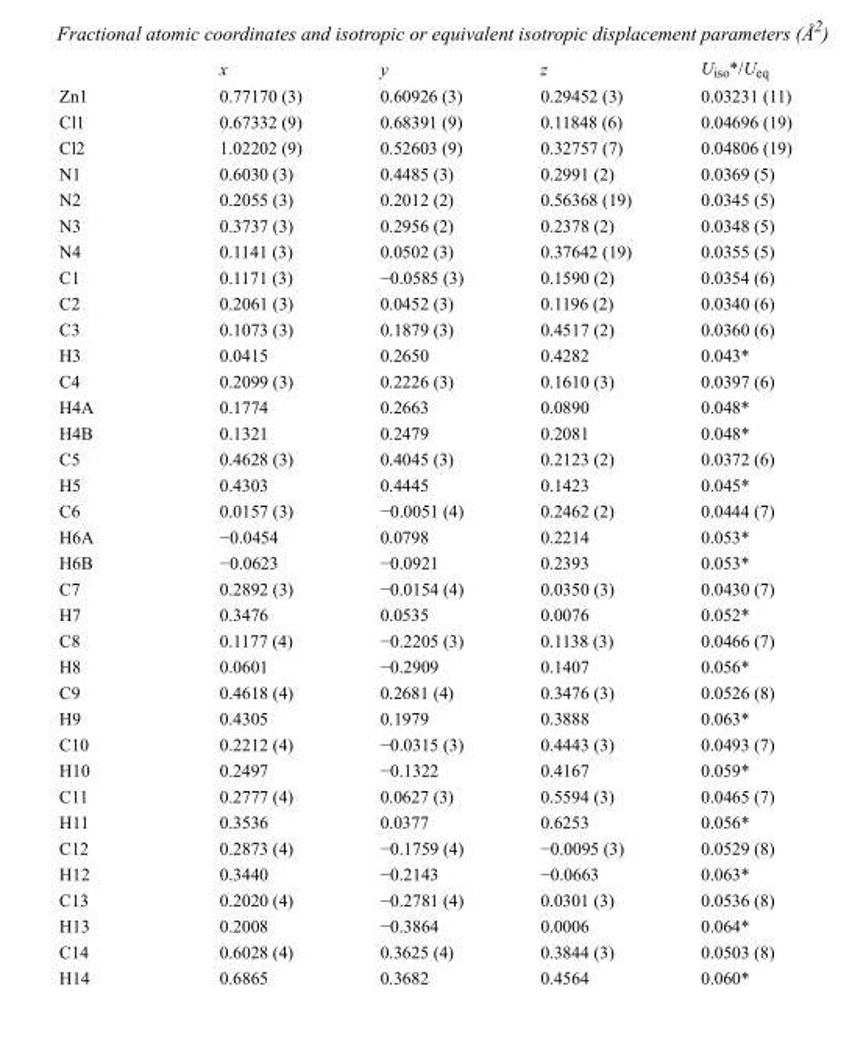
<table><thead><tr><td></td><td>x</td><td>y</td><td>z</td><td>U<sub>iso</sub>*/U<sub>eq</sub></td></tr></thead><tbody><tr><td>Zn1</td><td>0.77170 (3)</td><td>0.60926 (3)</td><td>0.29452 (3)</td><td>0.03231 (11)</td></tr><tr><td>Cl1</td><td>0.67332 (9)</td><td>0.68391 (9)</td><td>0.11848 (6)</td><td>0.04696 (19)</td></tr><tr><td>Cl2</td><td>1.02202 (9)</td><td>0.52603 (9)</td><td>0.32757 (7)</td><td>0.04806 (19)</td></tr><tr><td>N1</td><td>0.6030 (3)</td><td>0.4485 (3)</td><td>0.2991 (2)</td><td>0.0369 (5)</td></tr><tr><td>N2</td><td>0.2055 (3)</td><td>0.2012 (2)</td><td>0.56368 (19)</td><td>0.0345 (5)</td></tr><tr><td>N3</td><td>0.3737 (3)</td><td>0.2956 (2)</td><td>0.2378 (2)</td><td>0.0348 (5)</td></tr><tr><td>N4</td><td>0.1141 (3)</td><td>0.0502 (3)</td><td>0.37642 (19)</td><td>0.0355 (5)</td></tr><tr><td>C1</td><td>0.1171 (3)</td><td>−0.0585 (3)</td><td>0.1590 (2)</td><td>0.0354 (6)</td></tr><tr><td>C2</td><td>0.2061 (3)</td><td>0.0452 (3)</td><td>0.1196 (2)</td><td>0.0340 (6)</td></tr><tr><td>C3</td><td>0.1073 (3)</td><td>0.1879 (3)</td><td>0.4517 (2)</td><td>0.0360 (6)</td></tr><tr><td>H3</td><td>0.0415</td><td>0.2650</td><td>0.4282</td><td>0.043*</td></tr><tr><td>C4</td><td>0.2099 (3)</td><td>0.2226 (3)</td><td>0.1610 (3)</td><td>0.0397 (6)</td></tr><tr><td>H4A</td><td>0.1774</td><td>0.2663</td><td>0.0890</td><td>0.048*</td></tr><tr><td>H4B</td><td>0.1321</td><td>0.2479</td><td>0.2081</td><td>0.048*</td></tr><tr><td>C5</td><td>0.4628 (3)</td><td>0.4045 (3)</td><td>0.2123 (2)</td><td>0.0372 (6)</td></tr><tr><td>H5</td><td>0.4303</td><td>0.4445</td><td>0.1423</td><td>0.045*</td></tr><tr><td>C6</td><td>0.0157 (3)</td><td>−0.0051 (4)</td><td>0.2462 (2)</td><td>0.0444 (7)</td></tr><tr><td>H6A</td><td>−0.0454</td><td>0.0798</td><td>0.2214</td><td>0.053*</td></tr><tr><td>H6B</td><td>−0.0623</td><td>−0.0921</td><td>0.2393</td><td>0.053*</td></tr><tr><td>C7</td><td>0.2892 (3)</td><td>−0.0154 (4)</td><td>0.0350 (3)</td><td>0.0430 (7)</td></tr><tr><td>H7</td><td>0.3476</td><td>0.0535</td><td>0.0076</td><td>0.052*</td></tr><tr><td>C8</td><td>0.1177 (4)</td><td>−0.2205 (3)</td><td>0.1138 (3)</td><td>0.0466 (7)</td></tr><tr><td>H8</td><td>0.0601</td><td>−0.2909</td><td>0.1407</td><td>0.056*</td></tr><tr><td>C9</td><td>0.4618 (4)</td><td>0.2681 (4)</td><td>0.3476 (3)</td><td>0.0526 (8)</td></tr><tr><td>H9</td><td>0.4305</td><td>0.1979</td><td>0.3888</td><td>0.063*</td></tr><tr><td>C10</td><td>0.2212 (4)</td><td>−0.0315 (3)</td><td>0.4443 (3)</td><td>0.0493 (7)</td></tr><tr><td>H10</td><td>0.2497</td><td>−0.1322</td><td>0.4167</td><td>0.059*</td></tr><tr><td>C11</td><td>0.2777 (4)</td><td>0.0627 (3)</td><td>0.5594 (3)</td><td>0.0465 (7)</td></tr><tr><td>H11</td><td>0.3536</td><td>0.0377</td><td>0.6253</td><td>0.056*</td></tr><tr><td>C12</td><td>0.2873 (4)</td><td>−0.1759 (4)</td><td>−0.0095 (3)</td><td>0.0529 (8)</td></tr><tr><td>H12</td><td>0.3440</td><td>−0.2143</td><td>−0.0663</td><td>0.063*</td></tr><tr><td>C13</td><td>0.2020 (4)</td><td>−0.2781 (4)</td><td>0.0301 (3)</td><td>0.0536 (8)</td></tr><tr><td>H13</td><td>0.2008</td><td>−0.3864</td><td>0.0006</td><td>0.064*</td></tr><tr><td>C14</td><td>0.6028 (4)</td><td>0.3625 (4)</td><td>0.3844 (3)</td><td>0.0503 (8)</td></tr><tr><td>H14</td><td>0.6865</td><td>0.3682</td><td>0.4564</td><td>0.060*</td></tr></tbody></table>